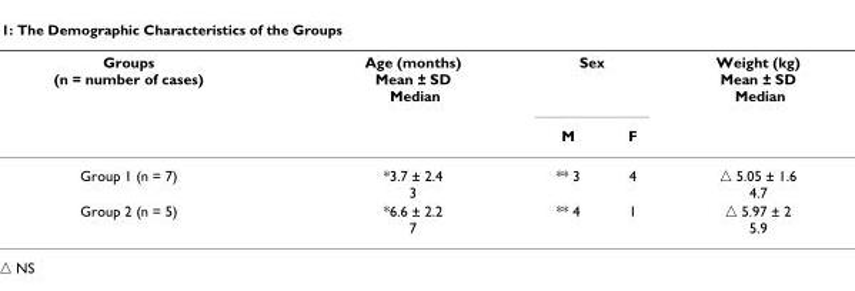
<table><thead><tr><td rowspan="2">Groups (n = number of cases)</td><td rowspan="2">Age (months) Mean ± SD Median</td><td colspan="2">Sex</td><td rowspan="2">Weight (kg) Mean ± SD Median</td></tr><tr><td>M</td><td>F</td></tr></thead><tbody><tr><td>Group 1 (n = 7)</td><td>*3.7 ± 2.4 3</td><td>** 3</td><td>4</td><td>△ 5.05 ± 1.6 4.7</td></tr><tr><td>Group 2 (n = 5)</td><td>*6.6 ± 2.2 7</td><td>** 4</td><td>1</td><td>△ 5.97 ± 2 5.9</td></tr></tbody></table>